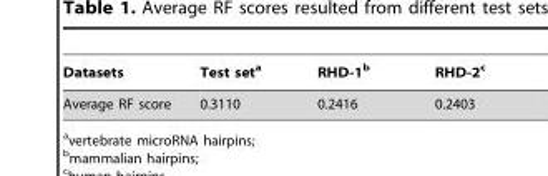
<table><thead><tr><td>Datasets</td><td>Test set<sup>a</sup></td><td>RHD-1<sup>b</sup></td><td>RHD-2<sup>c</sup></td></tr></thead><tbody><tr><td>Average RF score</td><td>0.3110</td><td>0.2416</td><td>0.2403</td></tr></tbody></table>